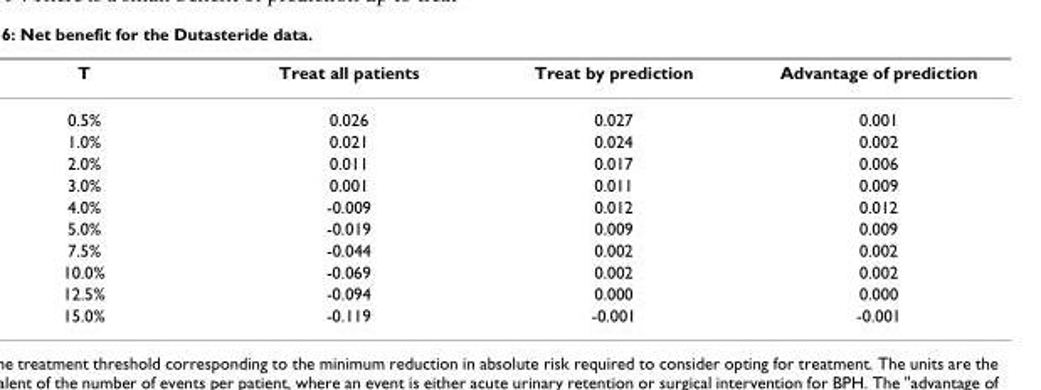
<table><thead><tr><td>T</td><td>Treat all patients</td><td>Treat by prediction</td><td>Advantage of prediction</td></tr></thead><tbody><tr><td>0.5%</td><td>0.026</td><td>0.027</td><td>0.001</td></tr><tr><td>1.0%</td><td>0.021</td><td>0.024</td><td>0.002</td></tr><tr><td>2.0%</td><td>0.011</td><td>0.017</td><td>0.006</td></tr><tr><td>3.0%</td><td>0.001</td><td>0.011</td><td>0.009</td></tr><tr><td>4.0%</td><td>-0.009</td><td>0.012</td><td>0.012</td></tr><tr><td>5.0%</td><td>-0.019</td><td>0.009</td><td>0.009</td></tr><tr><td>7.5%</td><td>-0.044</td><td>0.002</td><td>0.002</td></tr><tr><td>10.0%</td><td>-0.069</td><td>0.002</td><td>0.002</td></tr><tr><td>12.5%</td><td>-0.094</td><td>0.000</td><td>0.000</td></tr><tr><td>15.0%</td><td>-0.119</td><td>-0.001</td><td>-0.001</td></tr></tbody></table>